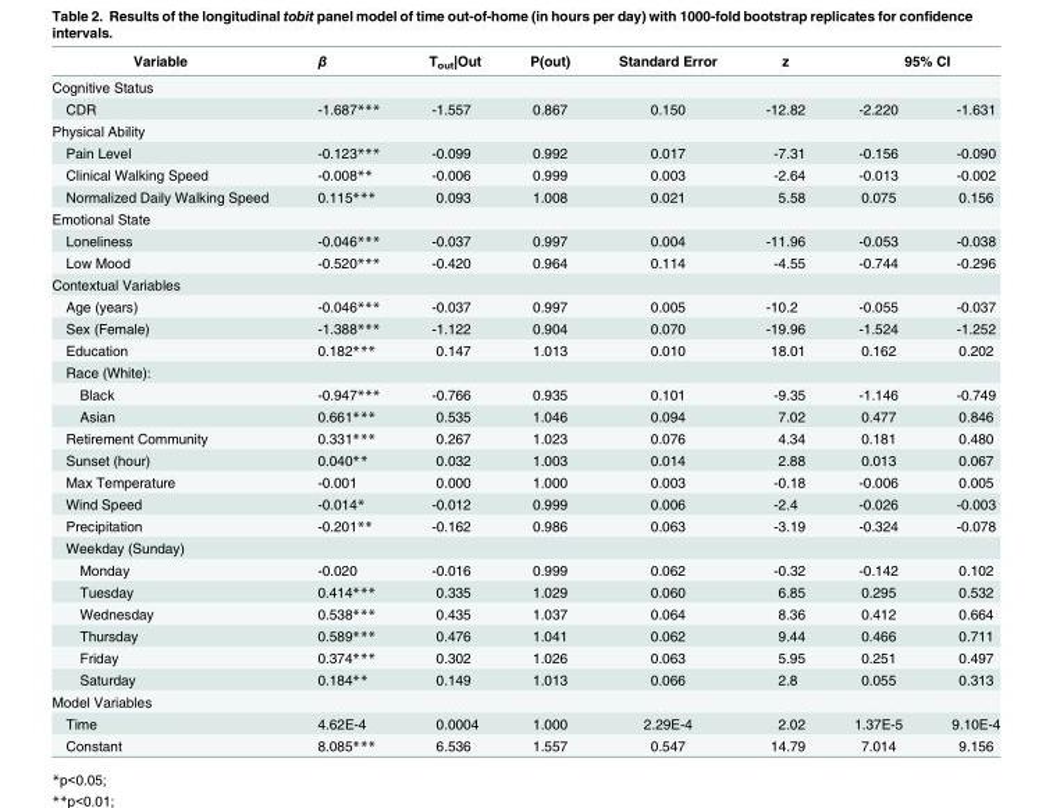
<table><thead><tr><td rowspan="2">Variable Cognitive Status</td><td rowspan="2">β</td><td rowspan="2">T<sub>out</sub>|Out</td><td rowspan="2">P(out)</td><td rowspan="2">Standard Error</td><td rowspan="2">z</td><td colspan="2">95% CI</td></tr><tr><td></td><td></td></tr></thead><tbody><tr><td>CDR</td><td>-1.687***</td><td>-1.557</td><td>0.867</td><td>0.150</td><td>-12.82</td><td>-2.220</td><td>-1.631</td></tr><tr><td colspan="8">Physical Ability</td></tr><tr><td>Pain Level</td><td>-0.123***</td><td>-0.099</td><td>0.992</td><td>0.017</td><td>-7.31</td><td>-0.156</td><td>-0.090</td></tr><tr><td>Clinical Walking Speed</td><td>-0.008**</td><td>-0.006</td><td>0.999</td><td>0.003</td><td>-2.64</td><td>-0.013</td><td>-0.002</td></tr><tr><td>Normalized Daily Walking Speed</td><td>0.115***</td><td>0.093</td><td>1.008</td><td>0.021</td><td>5.58</td><td>0.075</td><td>0.156</td></tr><tr><td colspan="8">Emotional State</td></tr><tr><td>Loneliness</td><td>-0.046***</td><td>-0.037</td><td>0.997</td><td>0.004</td><td>-11.96</td><td>-0.053</td><td>-0.038</td></tr><tr><td>Low Mood</td><td>-0.520***</td><td>-0.420</td><td>0.964</td><td>0.114</td><td>-4.55</td><td>-0.744</td><td>-0.296</td></tr><tr><td colspan="8">Contextual Variables</td></tr><tr><td>Age (years)</td><td>-0.046***</td><td>-0.037</td><td>0.997</td><td>0.005</td><td>-10.2</td><td>-0.055</td><td>-0.037</td></tr><tr><td>Sex (Female)</td><td>-1.388***</td><td>-1.122</td><td>0.904</td><td>0.070</td><td>-19.96</td><td>-1.524</td><td>-1.252</td></tr><tr><td>Education</td><td>0.182***</td><td>0.147</td><td>1.013</td><td>0.010</td><td>18.01</td><td>0.162</td><td>0.202</td></tr><tr><td colspan="8">Race (White):</td></tr><tr><td>Black</td><td>-0.947***</td><td>-0.766</td><td>0.935</td><td>0.101</td><td>-9.35</td><td>-1.146</td><td>-0.749</td></tr><tr><td>Asian</td><td>0.661***</td><td>0.535</td><td>1.046</td><td>0.094</td><td>7.02</td><td>0.477</td><td>0.846</td></tr><tr><td>Retirement Community</td><td>0.331***</td><td>0.267</td><td>1.023</td><td>0.076</td><td>4.34</td><td>0.181</td><td>0.480</td></tr><tr><td>Sunset (hour)</td><td>0.040**</td><td>0.032</td><td>1.003</td><td>0.014</td><td>2.88</td><td>0.013</td><td>0.067</td></tr><tr><td>Max Temperature</td><td>-0.001</td><td>0.000</td><td>1.000</td><td>0.003</td><td>-0.18</td><td>-0.006</td><td>0.005</td></tr><tr><td>Wind Speed</td><td>-0.014*</td><td>-0.012</td><td>0.999</td><td>0.006</td><td>-2.4</td><td>-0.026</td><td>-0.003</td></tr><tr><td>Precipitation</td><td>-0.201**</td><td>-0.162</td><td>0.986</td><td>0.063</td><td>-3.19</td><td>-0.324</td><td>-0.078</td></tr><tr><td colspan="8">Weekday (Sunday)</td></tr><tr><td>Monday</td><td>-0.020</td><td>-0.016</td><td>0.999</td><td>0.062</td><td>-0.32</td><td>-0.142</td><td>0.102</td></tr><tr><td>Tuesday</td><td>0.414***</td><td>0.335</td><td>1.029</td><td>0.060</td><td>6.85</td><td>0.295</td><td>0.532</td></tr><tr><td>Wednesday</td><td>0.538***</td><td>0.435</td><td>1.037</td><td>0.064</td><td>8.36</td><td>0.412</td><td>0.664</td></tr><tr><td>Thursday</td><td>0.589***</td><td>0.476</td><td>1.041</td><td>0.062</td><td>9.44</td><td>0.466</td><td>0.711</td></tr><tr><td>Friday</td><td>0.374***</td><td>0.302</td><td>1.026</td><td>0.063</td><td>5.95</td><td>0.251</td><td>0.497</td></tr><tr><td>Saturday</td><td>0.184**</td><td>0.149</td><td>1.013</td><td>0.066</td><td>2.8</td><td>0.055</td><td>0.313</td></tr><tr><td colspan="8">Model Variables</td></tr><tr><td>Time</td><td>4.62E-4</td><td>0.0004</td><td>1.000</td><td>2.29E-4</td><td>2.02</td><td>1.37E-5</td><td>9.10E-4</td></tr><tr><td>Constant</td><td>8.085***</td><td>6.536</td><td>1.557</td><td>0.547</td><td>14.79</td><td>7.014</td><td>9.156</td></tr></tbody></table>